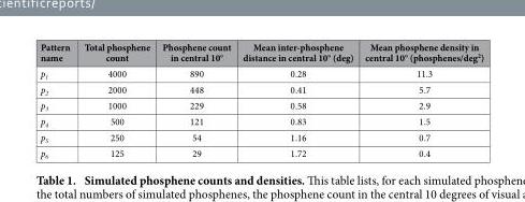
<table><thead><tr><td>Pattern name</td><td>Total phosphene count</td><td>Phosphene count in central 10°</td><td>Mean inter-phosphene distance in central 10° (deg)</td><td>Mean phosphene density in central 10° (phosphenes/deg<sup>2</sup>)</td></tr></thead><tbody><tr><td>p<sub>1</sub></td><td>4000</td><td>890</td><td>0.28</td><td>11.3</td></tr><tr><td>p<sub>2</sub></td><td>2000</td><td>448</td><td>0.41</td><td>5.7</td></tr><tr><td>p<sub>3</sub></td><td>1000</td><td>229</td><td>0.58</td><td>2.9</td></tr><tr><td>p<sub>4</sub></td><td>500</td><td>121</td><td>0.83</td><td>1.5</td></tr><tr><td>p<sub>5</sub></td><td>250</td><td>54</td><td>1.16</td><td>0.7</td></tr><tr><td>p<sub>6</sub></td><td>125</td><td>29</td><td>1.72</td><td>0.4</td></tr></tbody></table>